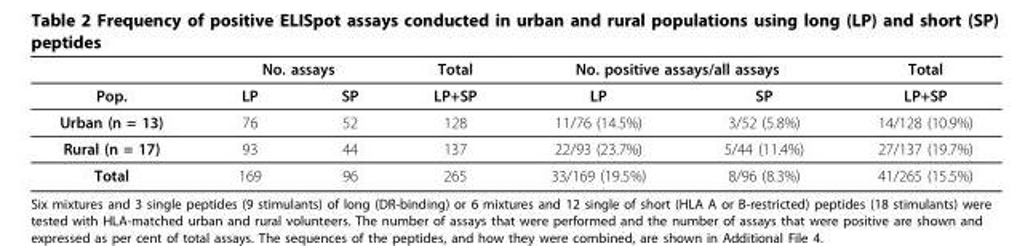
<table><thead><tr><td rowspan="2">Pop.</td><td colspan="2">No. assays</td><td rowspan="2">Total LP+SP</td><td colspan="2">No. positive assays/all assays</td><td rowspan="2">Total LP+SP</td></tr><tr><td>LP</td><td>SP</td><td>LP</td><td>SP</td></tr></thead><tbody><tr><td>Urban (n = 13)</td><td>76</td><td>52</td><td>128</td><td>11/76 (14.5%)</td><td>3/52 (5.8%)</td><td>14/128 (10.9%)</td></tr><tr><td>Rural (n = 17)</td><td>93</td><td>44</td><td>137</td><td>22/93 (23.7%)</td><td>5/44 (11.4%)</td><td>27/137 (19.7%)</td></tr><tr><td>Total</td><td>169</td><td>96</td><td>265</td><td>33/169 (19.5%)</td><td>8/96 (8.3%)</td><td>41/265 (15.5%)</td></tr></tbody></table>